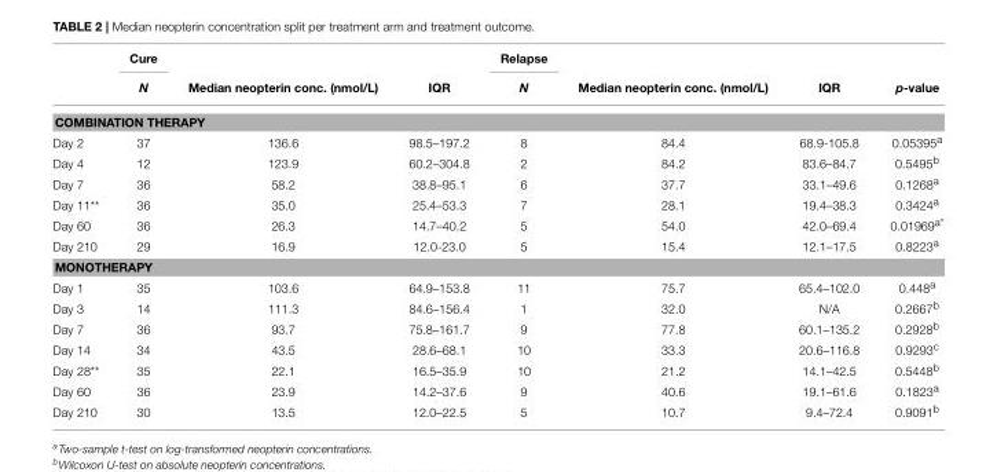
<table><thead><tr><td rowspan="2"></td><td rowspan="2">Cure N</td><td rowspan="2">Median neopterin conc. (nmol/L)</td><td rowspan="2">IQR</td><td rowspan="2">Relapse N</td><td rowspan="2">Median neopterin conc. (nmol/L)</td><td rowspan="2">IQR</td><td rowspan="2">p-value</td></tr><tr></tr></thead><tbody><tr><td colspan="8">COMBINATION THERAPY</td></tr><tr><td>Day 2</td><td>37</td><td>136.6</td><td>98.5–197.2</td><td>8</td><td>84.4</td><td>68.9-105.8</td><td>0.05395<sup>a</sup></td></tr><tr><td>Day 4</td><td>12</td><td>123.9</td><td>60.2–304.8</td><td>2</td><td>84.2</td><td>83.6–84.7</td><td>0.5495<sup>b</sup></td></tr><tr><td>Day 7</td><td>36</td><td>58.2</td><td>38.8–95.1</td><td>6</td><td>37.7</td><td>33.1–49.6</td><td>0.1268<sup>a</sup></td></tr><tr><td>Day 11**</td><td>36</td><td>35.0</td><td>25.4–53.3</td><td>7</td><td>28.1</td><td>19.4–38.3</td><td>0.3424<sup>a</sup></td></tr><tr><td>Day 60</td><td>36</td><td>26.3</td><td>14.7–40.2</td><td>5</td><td>54.0</td><td>42.0–69.4</td><td>0.01969<sup>a*</sup></td></tr><tr><td>Day 210</td><td>29</td><td>16.9</td><td>12.0-23.0</td><td>5</td><td>15.4</td><td>12.1–17.5</td><td>0.8223<sup>a</sup></td></tr><tr><td colspan="8">MONOTHERAPY</td></tr><tr><td>Day 1</td><td>35</td><td>103.6</td><td>64.9–153.8</td><td>11</td><td>75.7</td><td>65.4–102.0</td><td>0.448<sup>a</sup></td></tr><tr><td>Day 3</td><td>14</td><td>111.3</td><td>84.6–156.4</td><td>1</td><td>32.0</td><td>N/A</td><td>0.2667<sup>b</sup></td></tr><tr><td>Day 7</td><td>36</td><td>93.7</td><td>75.8–161.7</td><td>9</td><td>77.8</td><td>60.1–135.2</td><td>0.2928<sup>b</sup></td></tr><tr><td>Day 14</td><td>34</td><td>43.5</td><td>28.6–68.1</td><td>10</td><td>33.3</td><td>20.6–116.8</td><td>0.9293<sup>c</sup></td></tr><tr><td>Day 28**</td><td>35</td><td>22.1</td><td>16.5–35.9</td><td>10</td><td>21.2</td><td>14.1–42.5</td><td>0.5448<sup>b</sup></td></tr><tr><td>Day 60</td><td>36</td><td>23.9</td><td>14.2–37.6</td><td>9</td><td>40.6</td><td>19.1–61.6</td><td>0.1823<sup>a</sup></td></tr><tr><td>Day 210</td><td>30</td><td>13.5</td><td>12.0–22.5</td><td>5</td><td>10.7</td><td>9.4–72.4</td><td>0.9091<sup>b</sup></td></tr></tbody></table>